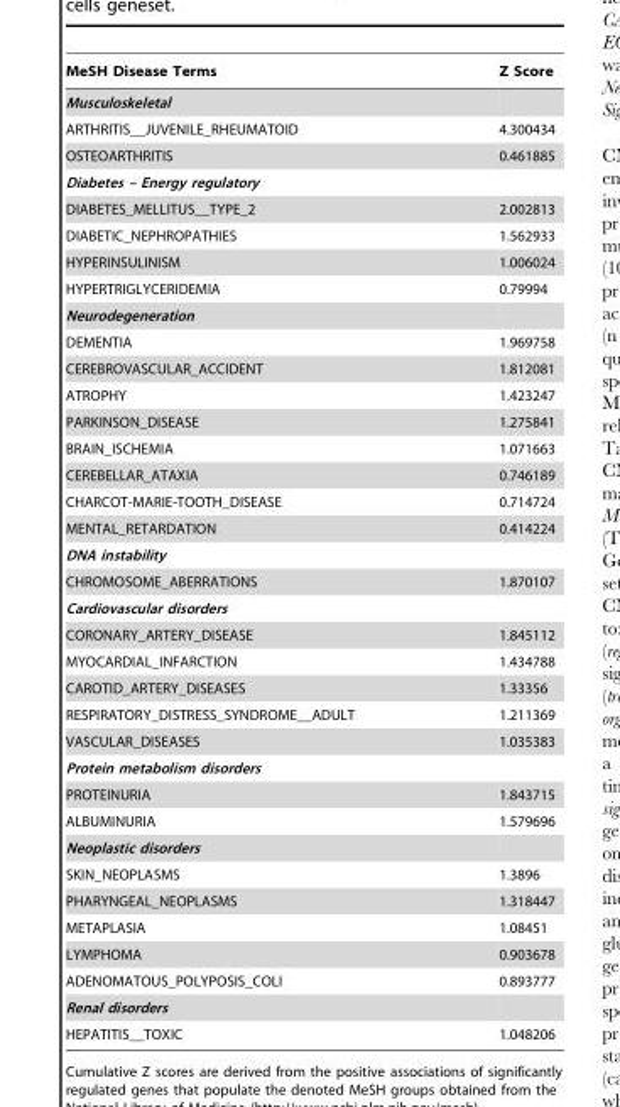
<table><thead><tr><td>MeSH Disease Terms</td><td>Z Score</td></tr></thead><tbody><tr><td colspan="2">Musculoskeletal</td></tr><tr><td>ARTHRITIS__JUVENILE_RHEUMATOID</td><td>4.300434</td></tr><tr><td>OSTEOARTHRITIS</td><td>0.461885</td></tr><tr><td colspan="2">Diabetes – Energy regulatory</td></tr><tr><td>DIABETES_MELLITUS__TYPE_2</td><td>2.002813</td></tr><tr><td>DIABETIC_NEPHROPATHIES</td><td>1.562933</td></tr><tr><td>HYPERINSULINISM</td><td>1.006024</td></tr><tr><td>HYPERTRIGLYCERIDEMIA</td><td>0.79994</td></tr><tr><td colspan="2">Neurodegeneration</td></tr><tr><td>DEMENTIA</td><td>1.969758</td></tr><tr><td>CEREBROVASCULAR_ACCIDENT</td><td>1.812081</td></tr><tr><td>ATROPHY</td><td>1.423247</td></tr><tr><td>PARKINSON_DISEASE</td><td>1.275841</td></tr><tr><td>BRAIN_ISCHEMIA</td><td>1.071663</td></tr><tr><td>CEREBELLAR_ATAXIA</td><td>0.746189</td></tr><tr><td>CHARCOT-MARIE-TOOTH_DISEASE</td><td>0.714724</td></tr><tr><td>MENTAL_RETARDATION</td><td>0.414224</td></tr><tr><td colspan="2">DNA instability</td></tr><tr><td>CHROMOSOME_ABERRATIONS</td><td>1.870107</td></tr><tr><td colspan="2">Cardiovascular disorders</td></tr><tr><td>CORONARY_ARTERY_DISEASE</td><td>1.845112</td></tr><tr><td>MYOCARDIAL_INFARCTION</td><td>1.434788</td></tr><tr><td>CAROTID_ARTERY_DISEASES</td><td>1.33356</td></tr><tr><td>RESPIRATORY_DISTRESS_SYNDROME__ADULT</td><td>1.211369</td></tr><tr><td>VASCULAR_DISEASES</td><td>1.035383</td></tr><tr><td colspan="2">Protein metabolism disorders</td></tr><tr><td>PROTEINURIA</td><td>1.843715</td></tr><tr><td>ALBUMINURIA</td><td>1.579696</td></tr><tr><td colspan="2">Neoplastic disorders</td></tr><tr><td>SKIN_NEOPLASMS</td><td>1.3896</td></tr><tr><td>PHARYNGEAL_NEOPLASMS</td><td>1.318447</td></tr><tr><td>METAPLASIA</td><td>1.08451</td></tr><tr><td>LYMPHOMA</td><td>0.903678</td></tr><tr><td>ADENOMATOUS_POLYPOSIS_COLI</td><td>0.893777</td></tr><tr><td colspan="2">Renal disorders</td></tr><tr><td>HEPATITIS__TOXIC</td><td>1.048206</td></tr></tbody></table>